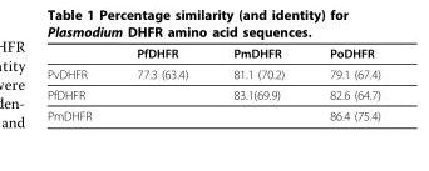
<table><thead><tr><td></td><td>PfDHFR</td><td>PmDHFR</td><td>PoDHFR</td></tr></thead><tbody><tr><td>PvDHFR</td><td>77.3 (63.4)</td><td>81.1 (70.2)</td><td>79.1 (67.4)</td></tr><tr><td>PfDHFR</td><td></td><td>83.1(69.9)</td><td>82.6 (64.7)</td></tr><tr><td>PmDHFR</td><td></td><td></td><td>86.4 (75.4)</td></tr></tbody></table>